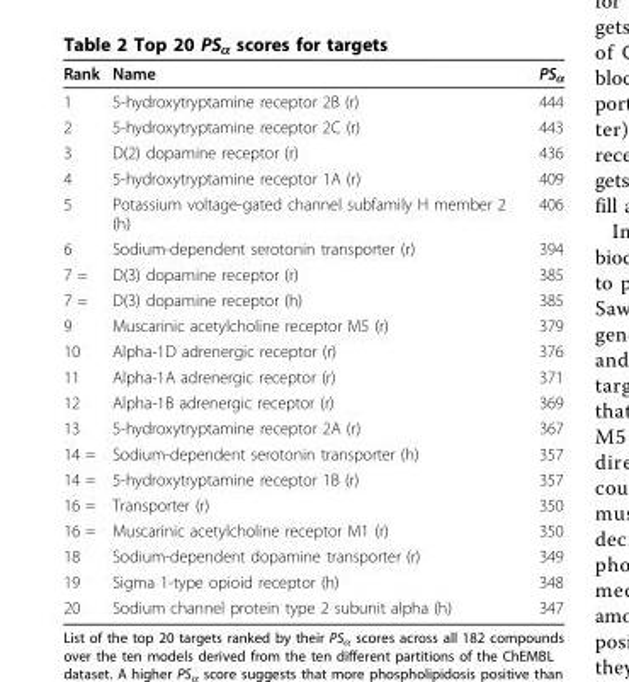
<table><thead><tr><td>Rank</td><td>Name</td><td>PS<sub>α</sub></td></tr></thead><tbody><tr><td>1</td><td>5-hydroxytryptamine receptor 2B (r)</td><td>444</td></tr><tr><td>2</td><td>5-hydroxytryptamine receptor 2C (r)</td><td>443</td></tr><tr><td>3</td><td>D(2) dopamine receptor (r)</td><td>436</td></tr><tr><td>4</td><td>5-hydroxytryptamine receptor 1A (r)</td><td>409</td></tr><tr><td>5</td><td>Potassium voltage-gated channel subfamily H member 2 (h)</td><td>406</td></tr><tr><td>6</td><td>Sodium-dependent serotonin transporter (r)</td><td>394</td></tr><tr><td>7 =</td><td>D(3) dopamine receptor (r)</td><td>385</td></tr><tr><td>7 =</td><td>D(3) dopamine receptor (h)</td><td>385</td></tr><tr><td>9</td><td>Muscarinic acetylcholine receptor M5 (r)</td><td>379</td></tr><tr><td>10</td><td>Alpha-1D adrenergic receptor (r)</td><td>376</td></tr><tr><td>11</td><td>Alpha-1A adrenergic receptor (r)</td><td>371</td></tr><tr><td>12</td><td>Alpha-1B adrenergic receptor (r)</td><td>369</td></tr><tr><td>13</td><td>5-hydroxytryptamine receptor 2A (r)</td><td>367</td></tr><tr><td>14 =</td><td>Sodium-dependent serotonin transporter (h)</td><td>357</td></tr><tr><td>14 =</td><td>5-hydroxytryptamine receptor 1B (r)</td><td>357</td></tr><tr><td>16 =</td><td>Transporter (r)</td><td>350</td></tr><tr><td>16 =</td><td>Muscarinic acetylcholine receptor M1 (r)</td><td>350</td></tr><tr><td>18</td><td>Sodium-dependent dopamine transporter (r)</td><td>349</td></tr><tr><td>19</td><td>Sigma 1-type opioid receptor (h)</td><td>348</td></tr><tr><td>20</td><td>Sodium channel protein type 2 subunit alpha (h)</td><td>347</td></tr></tbody></table>